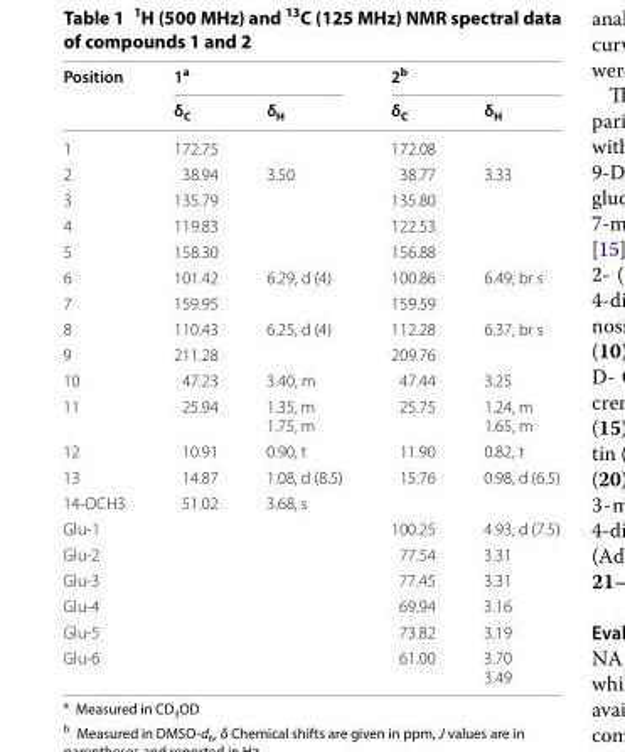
<table><thead><tr><td rowspan="2">Position</td><td colspan="2">1<sup>a</sup></td><td colspan="2">2<sup>b</sup></td></tr><tr><td>δ<sub>C</sub></td><td>δ<sub>H</sub></td><td>δ<sub>C</sub></td><td>δ<sub>H</sub></td></tr></thead><tbody><tr><td>1</td><td>172.75</td><td></td><td>172.08</td><td></td></tr><tr><td>2</td><td>38.94</td><td>3.50</td><td>38.77</td><td>3.33</td></tr><tr><td>3</td><td>135.79</td><td></td><td>135.80</td><td></td></tr><tr><td>4</td><td>119.83</td><td></td><td>122.53</td><td></td></tr><tr><td>5</td><td>158.30</td><td></td><td>156.88</td><td></td></tr><tr><td>6</td><td>101.42</td><td>6.29, d (4)</td><td>100.86</td><td>6.49, br s</td></tr><tr><td>7</td><td>159.95</td><td></td><td>159.59</td><td></td></tr><tr><td>8</td><td>110.43</td><td>6.25, d (4)</td><td>112.28</td><td>6.37, br s</td></tr><tr><td>9</td><td>211.28</td><td></td><td>209.76</td><td></td></tr><tr><td>10</td><td>47.23</td><td>3.40, m</td><td>47.44</td><td>3.25</td></tr><tr><td>11</td><td>25.94</td><td>1.35, m 1.75, m</td><td>25.75</td><td>1.24, m 1.65, m</td></tr><tr><td>12</td><td>10.91</td><td>0.90, t</td><td>11.90</td><td>0.82, t</td></tr><tr><td>13</td><td>14.87</td><td>1.08, d (8.5)</td><td>15.76</td><td>0.98, d (6.5)</td></tr><tr><td>14-OCH3</td><td>51.02</td><td>3.68, s</td><td></td><td></td></tr><tr><td>Glu-1</td><td></td><td></td><td>100.25</td><td>4.93, d (7.5)</td></tr><tr><td>Glu-2</td><td></td><td></td><td>77.54</td><td>3.31</td></tr><tr><td>Glu-3</td><td></td><td></td><td>77.45</td><td>3.31</td></tr><tr><td>Glu-4</td><td></td><td></td><td>69.94</td><td>3.16</td></tr><tr><td>Glu-5</td><td></td><td></td><td>73.82</td><td>3.19</td></tr><tr><td>Glu-6</td><td></td><td></td><td>61.00</td><td>3.70 3.49</td></tr></tbody></table>